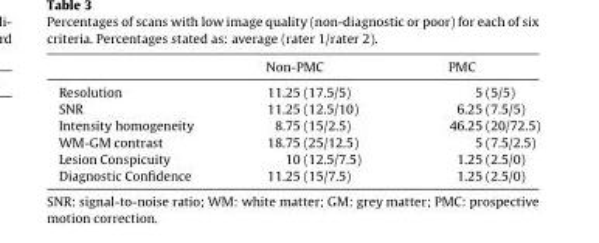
<table><thead><tr><td></td><td>Non-PMC</td><td>PMC</td></tr></thead><tbody><tr><td>Resolution</td><td>11.25 (17.5/5)</td><td>5 (5/5)</td></tr><tr><td>SNR</td><td>11.25 (12.5/10)</td><td>6.25 (7.5/5)</td></tr><tr><td>Intensity homogeneity</td><td>8.75 (15/2.5)</td><td>46.25 (20/72.5)</td></tr><tr><td>WM-GM contrast</td><td>18.75 (25/12.5)</td><td>5 (7.5/2.5)</td></tr><tr><td>Lesion Conspicuity</td><td>10 (12.5/7.5)</td><td>1.25 (2.5/0)</td></tr><tr><td>Diagnostic Confidence</td><td>11.25 (15/7.5)</td><td>1.25 (2.5/0)</td></tr></tbody></table>